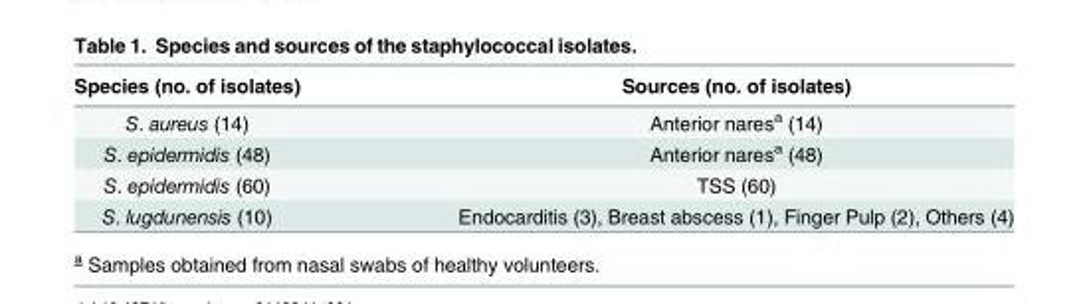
<table><thead><tr><td>Species (no. of isolates)</td><td>Sources (no. of isolates)</td></tr></thead><tbody><tr><td>S. aureus (14)</td><td>Anterior nares<sup>a</sup> (14)</td></tr><tr><td>S. epidermidis (48)</td><td>Anterior nares<sup>a</sup> (48)</td></tr><tr><td>S. epidermidis (60)</td><td>TSS (60)</td></tr><tr><td>S. lugdunensis (10)</td><td>Endocarditis (3), Breast abscess (1), Finger Pulp (2), Others (4)</td></tr></tbody></table>